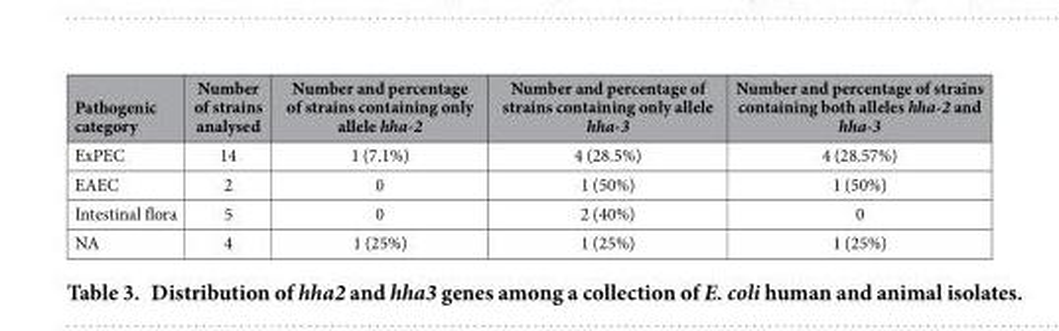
<table><thead><tr><td>Pathogenic category</td><td>Number of strains analysed</td><td>Number and percentage of strains containing only allele hha-2</td><td>Number and percentage of strains containing only allele hha-3</td><td>Number and percentage of strains containing both alleles hha-2 and hha-3</td></tr></thead><tbody><tr><td>ExPEC</td><td>14</td><td>1 (7.1%)</td><td>4 (28.5%)</td><td>4 (28.57%)</td></tr><tr><td>EAEC</td><td>2</td><td>0</td><td>1 (50%)</td><td>1 (50%)</td></tr><tr><td>Intestinal flora</td><td>5</td><td>0</td><td>2 (40%)</td><td>0</td></tr><tr><td>NA</td><td>4</td><td>1 (25%)</td><td>1 (25%)</td><td>1 (25%)</td></tr></tbody></table>